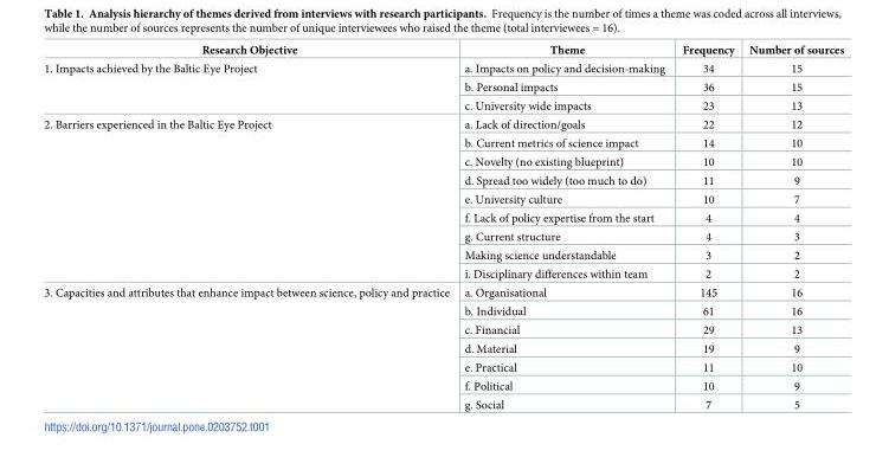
<table><thead><tr><td>Research Objective</td><td>Theme</td><td>Frequency</td><td>Number of sources</td></tr></thead><tbody><tr><td rowspan="3">1. Impacts achieved by the Baltic Eye Project</td><td>a. Impacts on policy and decision-making</td><td>34</td><td>15</td></tr><tr><td>b. Personal impacts</td><td>36</td><td>15</td></tr><tr><td>c. University wide impacts</td><td>23</td><td>13</td></tr><tr><td rowspan="9">2. Barriers experienced in the Baltic Eye Project</td><td>a. Lack of direction/goals</td><td>22</td><td>12</td></tr><tr><td>b. Current metrics of science impact</td><td>14</td><td>10</td></tr><tr><td>c. Novelty (no existing blueprint)</td><td>10</td><td>10</td></tr><tr><td>d. Spread too widely (too much to do)</td><td>11</td><td>9</td></tr><tr><td>e. University culture</td><td>10</td><td>7</td></tr><tr><td>f. Lack of policy expertise from the start</td><td>4</td><td>4</td></tr><tr><td>g. Current structure</td><td>4</td><td>3</td></tr><tr><td>Making science understandable</td><td>3</td><td>2</td></tr><tr><td>i. Disciplinary differences within team</td><td>2</td><td>2</td></tr><tr><td rowspan="7">3. Capacities and attributes that enhance impact between science, policy and practice</td><td>a. Organisational</td><td>145</td><td>16</td></tr><tr><td>b. Individual</td><td>61</td><td>16</td></tr><tr><td>c. Financial</td><td>29</td><td>13</td></tr><tr><td>d. Material</td><td>19</td><td>9</td></tr><tr><td>e. Practical</td><td>11</td><td>10</td></tr><tr><td>f. Political</td><td>10</td><td>9</td></tr><tr><td>g. Social</td><td>7</td><td>5</td></tr></tbody></table>